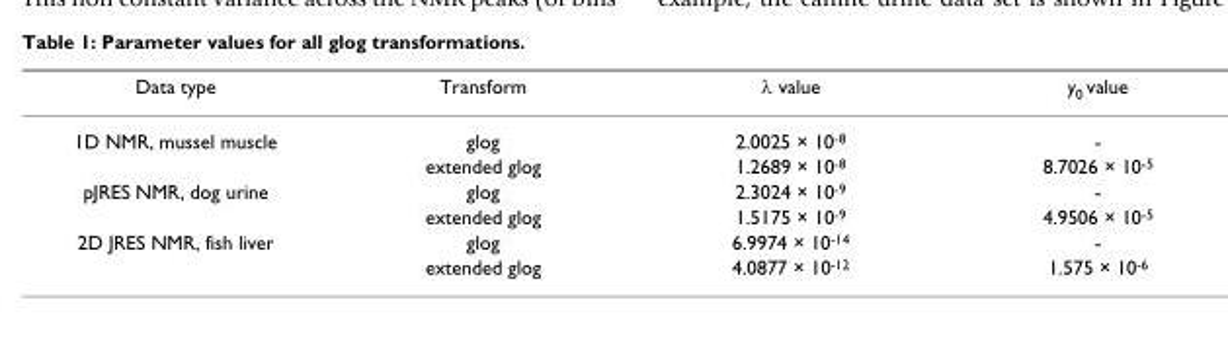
<table><thead><tr><td>Data type</td><td>Transform</td><td>λ value</td><td>y<sub>0</sub> value</td></tr></thead><tbody><tr><td rowspan="2">1D NMR, mussel muscle</td><td>glog</td><td>2.0025 × 10<sup>-8</sup></td><td>-</td></tr><tr><td>extended glog</td><td>1.2689 × 10<sup>-8</sup></td><td>8.7026 × 10<sup>-5</sup></td></tr><tr><td rowspan="2">pJRES NMR, dog urine</td><td>glog</td><td>2.3024 × 10<sup>-9</sup></td><td>-</td></tr><tr><td>extended glog</td><td>1.5175 × 10<sup>-9</sup></td><td>4.9506 × 10<sup>-5</sup></td></tr><tr><td rowspan="2">2D JRES NMR, fish liver</td><td>glog</td><td>6.9974 × 10<sup>-14</sup></td><td>-</td></tr><tr><td>extended glog</td><td>4.0877 × 10<sup>-12</sup></td><td>1.575 × 10<sup>-6</sup></td></tr></tbody></table>